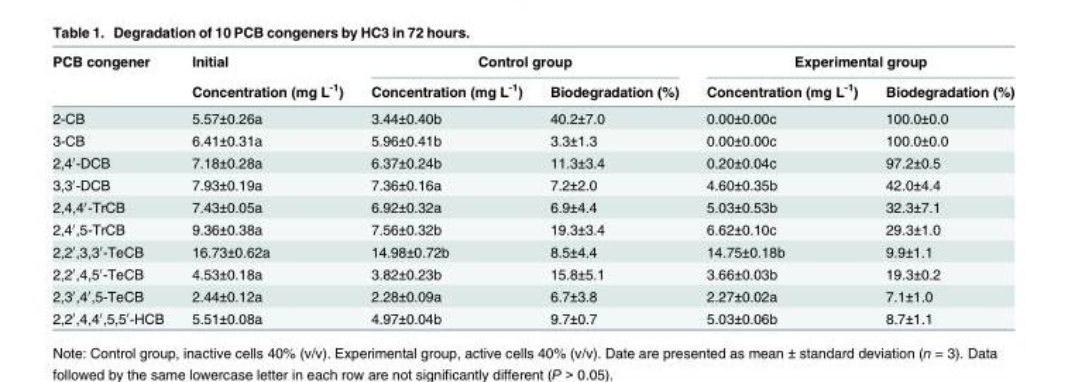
<table><thead><tr><td rowspan="2">PCB congener</td><td rowspan="2">Initial Concentration (mg L<sup>-1</sup>)</td><td colspan="2">Control group</td><td colspan="2">Experimental group</td></tr><tr><td>Concentration (mg L<sup>-1</sup>)</td><td>Biodegradation (%)</td><td>Concentration (mg L<sup>-1</sup>)</td><td>Biodegradation (%)</td></tr></thead><tbody><tr><td>2-CB</td><td>5.57±0.26a</td><td>3.44±0.40b</td><td>40.2±7.0</td><td>0.00±0.00c</td><td>100.0±0.0</td></tr><tr><td>3-CB</td><td>6.41±0.31a</td><td>5.96±0.41b</td><td>3.3±1.3</td><td>0.00±0.00c</td><td>100.0±0.0</td></tr><tr><td>2,4′-DCB</td><td>7.18±0.28a</td><td>6.37±0.24b</td><td>11.3±3.4</td><td>0.20±0.04c</td><td>97.2±0.5</td></tr><tr><td>3,3′-DCB</td><td>7.93±0.19a</td><td>7.36±0.16a</td><td>7.2±2.0</td><td>4.60±0.35b</td><td>42.0±4.4</td></tr><tr><td>2,4,4′-TrCB</td><td>7.43±0.05a</td><td>6.92±0.32a</td><td>6.9±4.4</td><td>5.03±0.53b</td><td>32.3±7.1</td></tr><tr><td>2,4′,5-TrCB</td><td>9.36±0.38a</td><td>7.56±0.32b</td><td>19.3±3.4</td><td>6.62±0.10c</td><td>29.3±1.0</td></tr><tr><td>2,2′,3,3′-TeCB</td><td>16.73±0.62a</td><td>14.98±0.72b</td><td>8.5±4.4</td><td>14.75±0.18b</td><td>9.9±1.1</td></tr><tr><td>2,2′,4,5′-TeCB</td><td>4.53±0.18a</td><td>3.82±0.23b</td><td>15.8±5.1</td><td>3.66±0.03b</td><td>19.3±0.2</td></tr><tr><td>2,3′,4′,5-TeCB</td><td>2.44±0.12a</td><td>2.28±0.09a</td><td>6.7±3.8</td><td>2.27±0.02a</td><td>7.1±1.0</td></tr><tr><td>2,2′,4,4′,5,5′-HCB</td><td>5.51±0.08a</td><td>4.97±0.04b</td><td>9.7±0.7</td><td>5.03±0.06b</td><td>8.7±1.1</td></tr></tbody></table>